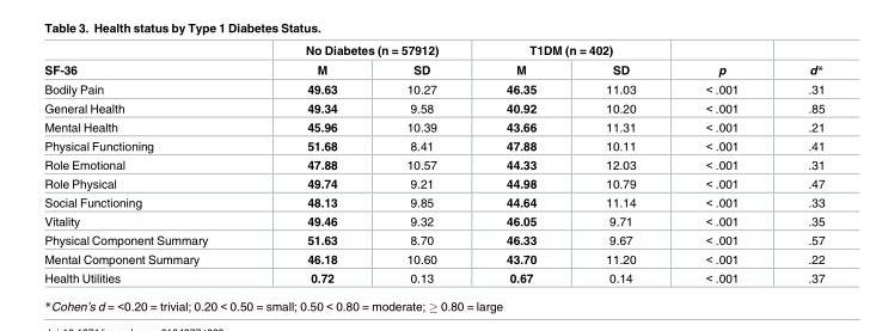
<table><thead><tr><td rowspan="2">SF-36</td><td colspan="2">No Diabetes (n = 57912)</td><td colspan="2">T1DM (n = 402)</td><td rowspan="2">p</td><td rowspan="2">d*</td></tr><tr><td>M</td><td>SD</td><td>M</td><td>SD</td></tr></thead><tbody><tr><td>Bodily Pain</td><td>49.63</td><td>10.27</td><td>46.35</td><td>11.03</td><td>&lt; .001</td><td>.31</td></tr><tr><td>General Health</td><td>49.34</td><td>9.58</td><td>40.92</td><td>10.20</td><td>&lt; .001</td><td>.85</td></tr><tr><td>Mental Health</td><td>45.96</td><td>10.39</td><td>43.66</td><td>11.31</td><td>&lt; .001</td><td>.21</td></tr><tr><td>Physical Functioning</td><td>51.68</td><td>8.41</td><td>47.88</td><td>10.11</td><td>&lt; .001</td><td>.41</td></tr><tr><td>Role Emotional</td><td>47.88</td><td>10.57</td><td>44.33</td><td>12.03</td><td>&lt; .001</td><td>.31</td></tr><tr><td>Role Physical</td><td>49.74</td><td>9.21</td><td>44.98</td><td>10.79</td><td>&lt; .001</td><td>.47</td></tr><tr><td>Social Functioning</td><td>48.13</td><td>9.85</td><td>44.64</td><td>11.14</td><td>&lt; .001</td><td>.33</td></tr><tr><td>Vitality</td><td>49.46</td><td>9.32</td><td>46.05</td><td>9.71</td><td>&lt; .001</td><td>.35</td></tr><tr><td>Physical Component Summary</td><td>51.63</td><td>8.70</td><td>46.33</td><td>9.67</td><td>&lt; .001</td><td>.57</td></tr><tr><td>Mental Component Summary</td><td>46.18</td><td>10.60</td><td>43.70</td><td>11.20</td><td>&lt; .001</td><td>.22</td></tr><tr><td>Health Utilities</td><td>0.72</td><td>0.13</td><td>0.67</td><td>0.14</td><td>&lt; .001</td><td>.37</td></tr></tbody></table>